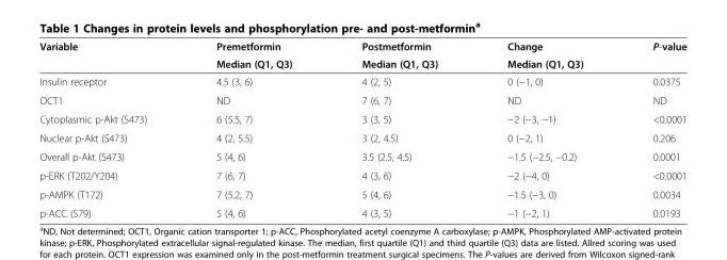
<table><thead><tr><td rowspan="2">Variable</td><td rowspan="2">Premetformin Median (Q1, Q3)</td><td rowspan="2">Postmetformin Median (Q1, Q3)</td><td rowspan="2">Change Median (Q1, Q3)</td><td rowspan="2">P-value</td></tr><tr></tr></thead><tbody><tr><td>Insulin receptor</td><td>4.5 (3, 6)</td><td>4 (2, 5)</td><td>0 (−1, 0)</td><td>0.0375</td></tr><tr><td>OCT1</td><td>ND</td><td>7 (6, 7)</td><td>ND</td><td>ND</td></tr><tr><td>Cytoplasmic p-Akt (S473)</td><td>6 (5.5, 7)</td><td>3 (3, 5)</td><td>−2 (−3, −1)</td><td>&lt;0.0001</td></tr><tr><td>Nuclear p-Akt (S473)</td><td>4 (2, 5.5)</td><td>3 (2, 4.5)</td><td>0 (−2, 1)</td><td>0.206</td></tr><tr><td>Overall p-Akt (S473)</td><td>5 (4, 6)</td><td>3.5 (2.5, 4.5)</td><td>−1.5 (−2.5, −0.2)</td><td>0.0001</td></tr><tr><td>p-ERK (T202/Y204)</td><td>7 (6, 7)</td><td>4 (3, 6)</td><td>−2 (−4, 0)</td><td>&lt;0.0001</td></tr><tr><td>p-AMPK (T172)</td><td>7 (5.2, 7)</td><td>5 (4, 6)</td><td>−1.5 (−3, 0)</td><td>0.0034</td></tr><tr><td>p-ACC (S79)</td><td>5 (4, 6)</td><td>4 (3, 5)</td><td>−1 (−2, 1)</td><td>0.0193</td></tr></tbody></table>